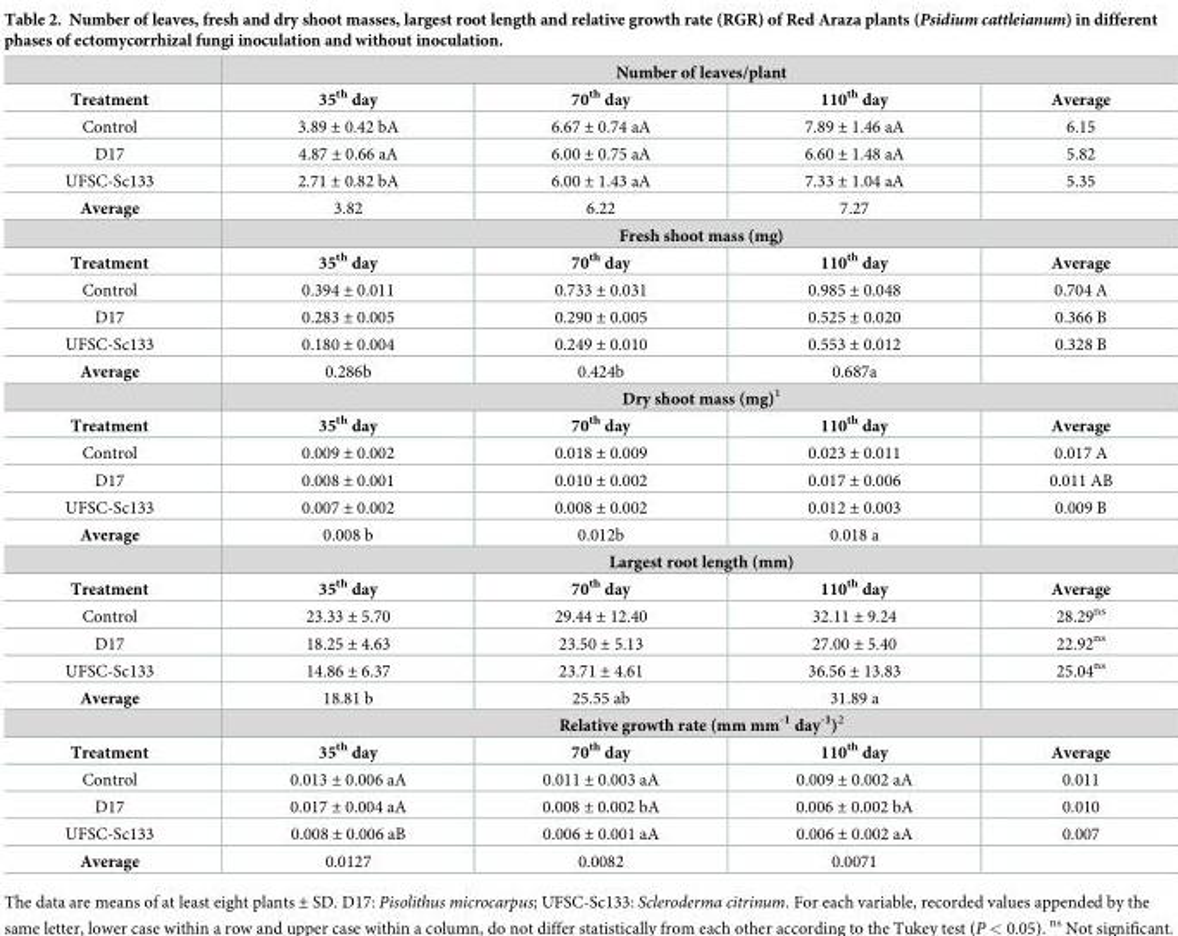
<table><thead><tr><td rowspan="2">Treatment</td><td colspan="4">Number of leaves/plant</td></tr><tr><td>35<sup>th</sup> day</td><td>70<sup>th</sup> day</td><td>110<sup>th</sup> day</td><td>Average</td></tr></thead><tbody><tr><td>Control</td><td>3.89 ± 0.42 bA</td><td>6.67 ± 0.74 aA</td><td>7.89 ± 1.46 aA</td><td>6.15</td></tr><tr><td>D17</td><td>4.87 ± 0.66 aA</td><td>6.00 ± 0.75 aA</td><td>6.60 ± 1.48 aA</td><td>5.82</td></tr><tr><td>UFSC-Sc133</td><td>2.71 ± 0.82 bA</td><td>6.00 ± 1.43 aA</td><td>7.33 ± 1.04 aA</td><td>5.35</td></tr><tr><td rowspan="2">Average</td><td>3.82</td><td>6.22</td><td>7.27</td><td></td></tr><tr><td colspan="4">Fresh shoot mass (mg)</td></tr><tr><td>Treatment</td><td>35<sup>th</sup> day</td><td>70<sup>th</sup> day</td><td>110<sup>th</sup> day</td><td>Average</td></tr><tr><td>Control</td><td>0.394 ± 0.011</td><td>0.733 ± 0.031</td><td>0.985 ± 0.048</td><td>0.704 A</td></tr><tr><td>D17</td><td>0.283 ± 0.005</td><td>0.290 ± 0.005</td><td>0.525 ± 0.020</td><td>0.366 B</td></tr><tr><td>UFSC-Sc133</td><td>0.180 ± 0.004</td><td>0.249 ± 0.010</td><td>0.553 ± 0.012</td><td>0.328 B</td></tr><tr><td rowspan="2">Average</td><td>0.286b</td><td>0.424b</td><td>0.687a</td><td></td></tr><tr><td colspan="4">Dry shoot mass (mg)<sup>1</sup></td></tr><tr><td>Treatment</td><td>35<sup>th</sup> day</td><td>70<sup>th</sup> day</td><td>110<sup>th</sup> day</td><td>Average</td></tr><tr><td>Control</td><td>0.009 ± 0.002</td><td>0.018 ± 0.009</td><td>0.023 ± 0.011</td><td>0.017 A</td></tr><tr><td>D17</td><td>0.008 ± 0.001</td><td>0.010 ± 0.002</td><td>0.017 ± 0.006</td><td>0.011 AB</td></tr><tr><td>UFSC-Sc133</td><td>0.007 ± 0.002</td><td>0.008 ± 0.002</td><td>0.012 ± 0.003</td><td>0.009 B</td></tr><tr><td rowspan="2">Average</td><td>0.008 b</td><td>0.012b</td><td>0.018 a</td><td></td></tr><tr><td colspan="4">Largest root length (mm)</td></tr><tr><td>Treatment</td><td>35<sup>th</sup> day</td><td>70<sup>th</sup> day</td><td>110<sup>th</sup> day</td><td>Average</td></tr><tr><td>Control</td><td>23.33 ± 5.70</td><td>29.44 ± 12.40</td><td>32.11 ± 9.24</td><td>28.29<sup>ns</sup></td></tr><tr><td>D17</td><td>18.25 ± 4.63</td><td>23.50 ± 5.13</td><td>27.00 ± 5.40</td><td>22.92<sup>ns</sup></td></tr><tr><td>UFSC-Sc133</td><td>14.86 ± 6.37</td><td>23.71 ± 4.61</td><td>36.56 ± 13.83</td><td>25.04<sup>ns</sup></td></tr><tr><td rowspan="2">Average</td><td>18.81 b</td><td>25.55 ab</td><td>31.89 a</td><td></td></tr><tr><td colspan="4">Relative growth rate (mm mm<sup>-1</sup> day<sup>-1</sup>)<sup>2</sup></td></tr><tr><td>Treatment</td><td>35<sup>th</sup> day</td><td>70<sup>th</sup> day</td><td>110<sup>th</sup> day</td><td>Average</td></tr><tr><td>Control</td><td>0.013 ± 0.006 aA</td><td>0.011 ± 0.003 aA</td><td>0.009 ± 0.002 aA</td><td>0.011</td></tr><tr><td>D17</td><td>0.017 ± 0.004 aA</td><td>0.008 ± 0.002 bA</td><td>0.006 ± 0.002 bA</td><td>0.010</td></tr><tr><td>UFSC-Sc133</td><td>0.008 ± 0.006 aB</td><td>0.006 ± 0.001 aA</td><td>0.006 ± 0.002 aA</td><td>0.007</td></tr><tr><td>Average</td><td>0.0127</td><td>0.0082</td><td>0.0071</td><td></td></tr></tbody></table>